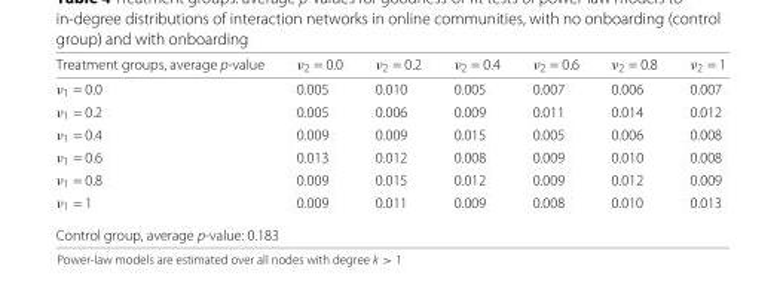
<table><thead><tr><td>Treatment groups, average p-value</td><td>ν<sub>2</sub> = 0.0</td><td>ν<sub>2</sub> = 0.2</td><td>ν<sub>2</sub> = 0.4</td><td>ν<sub>2</sub> = 0.6</td><td>ν<sub>2</sub> = 0.8</td><td>ν<sub>2</sub> = 1</td></tr></thead><tbody><tr><td>ν<sub>1</sub> = 0.0</td><td>0.005</td><td>0.010</td><td>0.005</td><td>0.007</td><td>0.006</td><td>0.007</td></tr><tr><td>ν<sub>1</sub> = 0.2</td><td>0.005</td><td>0.006</td><td>0.009</td><td>0.011</td><td>0.014</td><td>0.012</td></tr><tr><td>ν<sub>1</sub> = 0.4</td><td>0.009</td><td>0.009</td><td>0.015</td><td>0.005</td><td>0.006</td><td>0.008</td></tr><tr><td>ν<sub>1</sub> = 0.6</td><td>0.013</td><td>0.012</td><td>0.008</td><td>0.009</td><td>0.010</td><td>0.008</td></tr><tr><td>ν<sub>1</sub> = 0.8</td><td>0.009</td><td>0.015</td><td>0.012</td><td>0.009</td><td>0.012</td><td>0.009</td></tr><tr><td>ν<sub>1</sub> = 1</td><td>0.009</td><td>0.011</td><td>0.009</td><td>0.008</td><td>0.010</td><td>0.013</td></tr><tr><td colspan="7">Control group, average p-value: 0.183</td></tr></tbody></table>